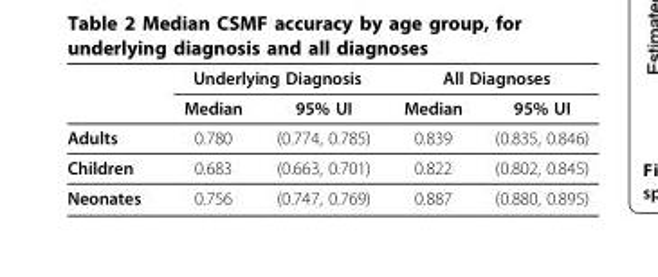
<table><thead><tr><td rowspan="2"></td><td colspan="2">Underlying Diagnosis</td><td colspan="2">All Diagnoses</td></tr><tr><td>Median</td><td>95% UI</td><td>Median</td><td>95% UI</td></tr></thead><tbody><tr><td>Adults</td><td>0.780</td><td>(0.774, 0.785)</td><td>0.839</td><td>(0.835, 0.846)</td></tr><tr><td>Children</td><td>0.683</td><td>(0.663, 0.701)</td><td>0.822</td><td>(0.802, 0.845)</td></tr><tr><td>Neonates</td><td>0.756</td><td>(0.747, 0.769)</td><td>0.887</td><td>(0.880, 0.895)</td></tr></tbody></table>